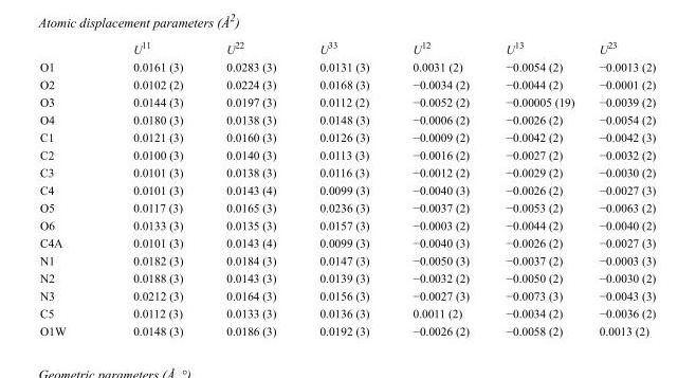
<table><thead><tr><td></td><td>U<sup>11</sup></td><td>U<sup>22</sup></td><td>U<sup>33</sup></td><td>U<sup>12</sup></td><td>U<sup>13</sup></td><td>U<sup>23</sup></td></tr></thead><tbody><tr><td>O1</td><td>0.0161 (3)</td><td>0.0283 (3)</td><td>0.0131 (3)</td><td>0.0031 (2)</td><td>−0.0054 (2)</td><td>−0.0013 (2)</td></tr><tr><td>O2</td><td>0.0102 (2)</td><td>0.0224 (3)</td><td>0.0168 (3)</td><td>−0.0034 (2)</td><td>−0.0044 (2)</td><td>−0.0001 (2)</td></tr><tr><td>O3</td><td>0.0144 (3)</td><td>0.0197 (3)</td><td>0.0112 (2)</td><td>−0.0052 (2)</td><td>−0.00005 (19)</td><td>−0.0039 (2)</td></tr><tr><td>O4</td><td>0.0180 (3)</td><td>0.0138 (3)</td><td>0.0148 (3)</td><td>−0.0006 (2)</td><td>−0.0026 (2)</td><td>−0.0054 (2)</td></tr><tr><td>C1</td><td>0.0121 (3)</td><td>0.0160 (3)</td><td>0.0126 (3)</td><td>−0.0009 (2)</td><td>−0.0042 (2)</td><td>−0.0042 (3)</td></tr><tr><td>C2</td><td>0.0100 (3)</td><td>0.0140 (3)</td><td>0.0113 (3)</td><td>−0.0016 (2)</td><td>−0.0027 (2)</td><td>−0.0032 (2)</td></tr><tr><td>C3</td><td>0.0101 (3)</td><td>0.0138 (3)</td><td>0.0116 (3)</td><td>−0.0012 (2)</td><td>−0.0029 (2)</td><td>−0.0030 (2)</td></tr><tr><td>C4</td><td>0.0101 (3)</td><td>0.0143 (4)</td><td>0.0099 (3)</td><td>−0.0040 (3)</td><td>−0.0026 (2)</td><td>−0.0027 (3)</td></tr><tr><td>O5</td><td>0.0117 (3)</td><td>0.0165 (3)</td><td>0.0236 (3)</td><td>−0.0037 (2)</td><td>−0.0053 (2)</td><td>−0.0063 (2)</td></tr><tr><td>O6</td><td>0.0133 (3)</td><td>0.0135 (3)</td><td>0.0157 (3)</td><td>−0.0003 (2)</td><td>−0.0044 (2)</td><td>−0.0040 (2)</td></tr><tr><td>C4A</td><td>0.0101 (3)</td><td>0.0143 (4)</td><td>0.0099 (3)</td><td>−0.0040 (3)</td><td>−0.0026 (2)</td><td>−0.0027 (3)</td></tr><tr><td>N1</td><td>0.0182 (3)</td><td>0.0184 (3)</td><td>0.0147 (3)</td><td>−0.0050 (3)</td><td>−0.0037 (2)</td><td>−0.0003 (3)</td></tr><tr><td>N2</td><td>0.0188 (3)</td><td>0.0143 (3)</td><td>0.0139 (3)</td><td>−0.0032 (2)</td><td>−0.0050 (2)</td><td>−0.0030 (2)</td></tr><tr><td>N3</td><td>0.0212 (3)</td><td>0.0164 (3)</td><td>0.0156 (3)</td><td>−0.0027 (3)</td><td>−0.0073 (3)</td><td>−0.0043 (3)</td></tr><tr><td>C5</td><td>0.0112 (3)</td><td>0.0133 (3)</td><td>0.0136 (3)</td><td>0.0011 (2)</td><td>−0.0034 (2)</td><td>−0.0036 (2)</td></tr><tr><td>O1W</td><td>0.0148 (3)</td><td>0.0186 (3)</td><td>0.0192 (3)</td><td>−0.0026 (2)</td><td>−0.0058 (2)</td><td>0.0013 (2)</td></tr></tbody></table>